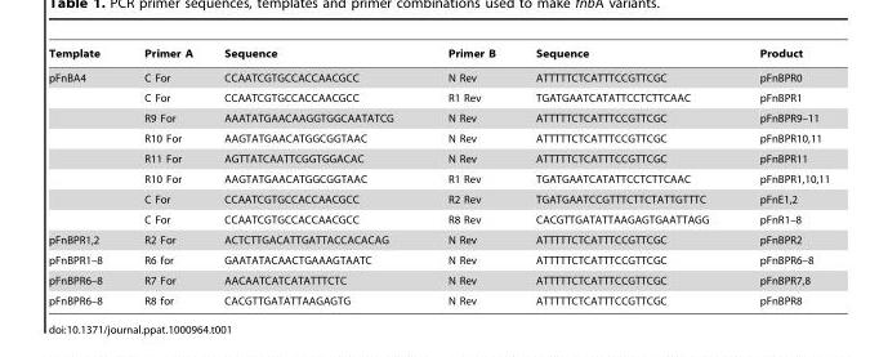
<table><thead><tr><td>Template</td><td>Primer A</td><td>Sequence</td><td>Primer B</td><td>Sequence</td><td>Product</td></tr></thead><tbody><tr><td rowspan="8">pFnBA4</td><td>C For</td><td>CCAATCGTGCCACCAACGCC</td><td>N Rev</td><td>ATTTTTCTCATTTCCGTTCGC</td><td>pFnBPR0</td></tr><tr><td>C For</td><td>CCAATCGTGCCACCAACGCC</td><td>R1 Rev</td><td>TGATGAATCATATTCCTCTTCAAC</td><td>pFnBPR1</td></tr><tr><td>R9 For</td><td>AAATATGAACAAGGTGGCAATATCG</td><td>N Rev</td><td>ATTTTTCTCATTTCCGTTCGC</td><td>pFnBPR9–11</td></tr><tr><td>R10 For</td><td>AAGTATGAACATGGCGGTAAC</td><td>N Rev</td><td>ATTTTTCTCATTTCCGTTCGC</td><td>pFnBPR10,11</td></tr><tr><td>R11 For</td><td>AGTTATCAATTCGGTGGACAC</td><td>N Rev</td><td>ATTTTTCTCATTTCCGTTCGC</td><td>pFnBPR11</td></tr><tr><td>R10 For</td><td>AAGTATGAACATGGCGGTAAC</td><td>R1 Rev</td><td>TGATGAATCATATTCCTCTTCAAC</td><td>pFnBPR1,10,11</td></tr><tr><td>C For</td><td>CCAATCGTGCCACCAACGCC</td><td>R2 Rev</td><td>TGATGAATCCGTTTCTTCTATTGTTTC</td><td>pFnE1,2</td></tr><tr><td>C For</td><td>CCAATCGTGCCACCAACGCC</td><td>R8 Rev</td><td>CACGTTGATATTAAGAGTGAATTAGG</td><td>pFnR1–8</td></tr><tr><td>pFnBPR1,2</td><td>R2 For</td><td>ACTCTTGACATTGATTACCACACAG</td><td>N Rev</td><td>ATTTTTCTCATTTCCGTTCGC</td><td>pFnBPR2</td></tr><tr><td>pFnBPR1–8</td><td>R6 for</td><td>GAATATACAACTGAAAGTAATC</td><td>N Rev</td><td>ATTTTTCTCATTTCCGTTCGC</td><td>pFnBPR6–8</td></tr><tr><td>pFnBPR6–8</td><td>R7 For</td><td>AACAATCATCATATTTCTC</td><td>N Rev</td><td>ATTTTTCTCATTTCCGTTCGC</td><td>pFnBPR7,8</td></tr><tr><td>pFnBPR6–8</td><td>R8 for</td><td>CACGTTGATATTAAGAGTG</td><td>N Rev</td><td>ATTTTTCTCATTTCCGTTCGC</td><td>pFnBPR8</td></tr></tbody></table>